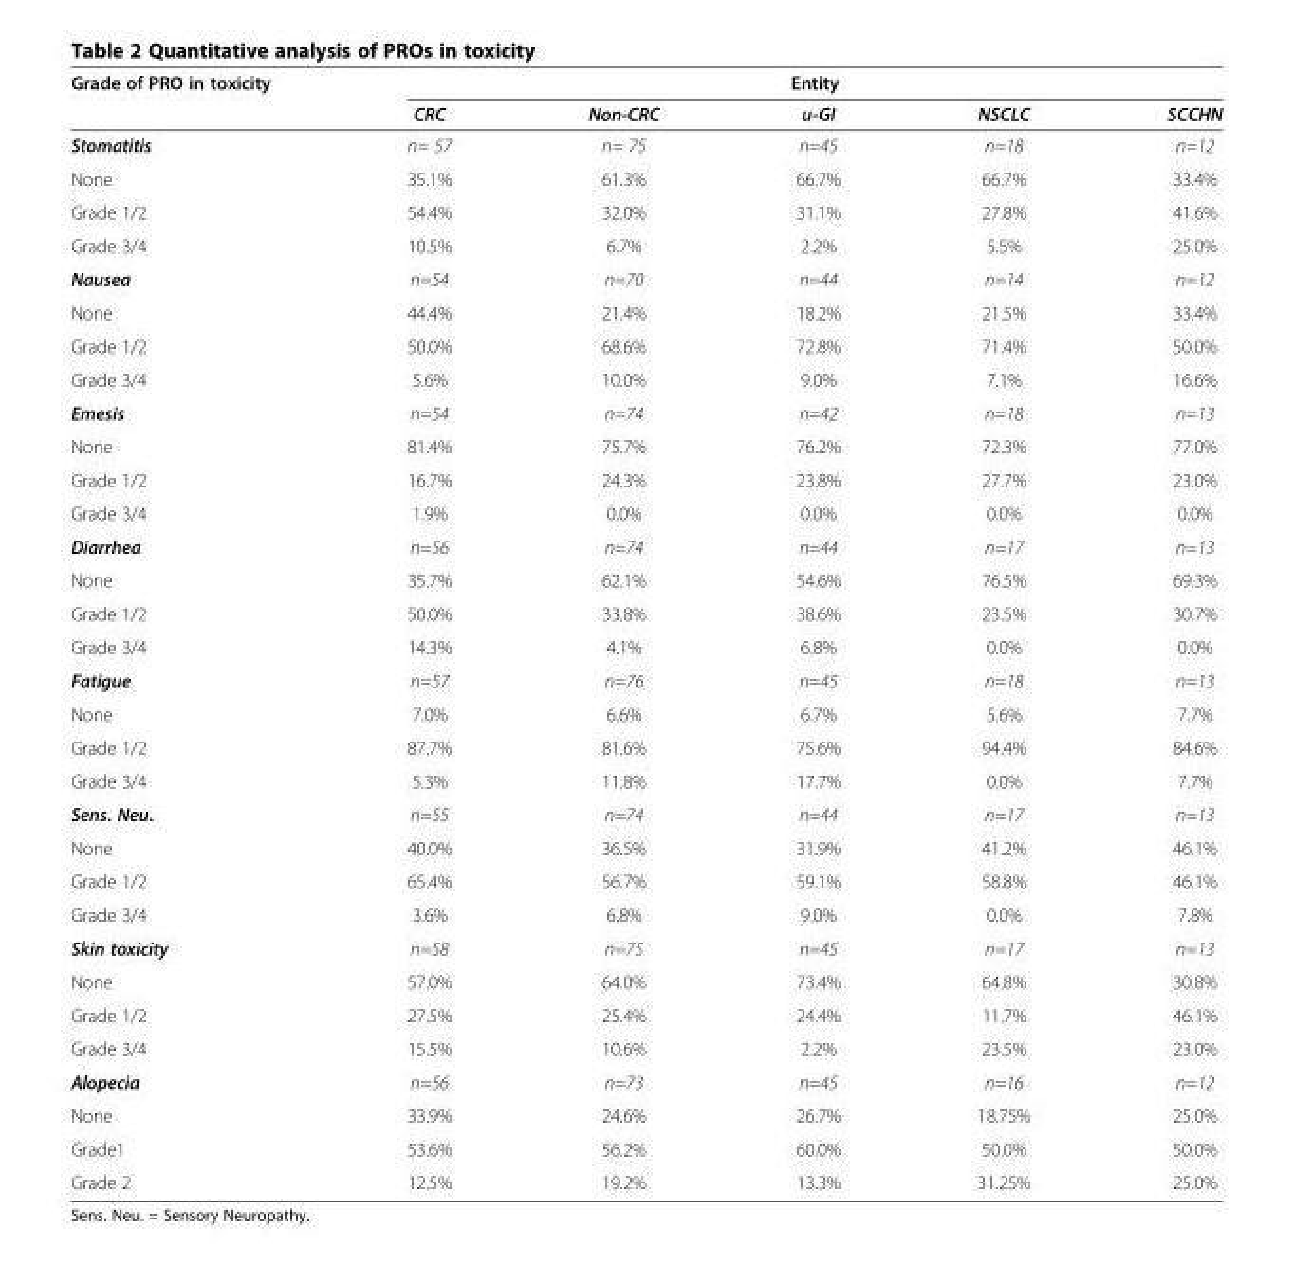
<table><thead><tr><td rowspan="2">Grade of PRO in toxicity</td><td colspan="5">Entity</td></tr><tr><td>CRC</td><td>Non-CRC</td><td>u-GI</td><td>NSCLC</td><td>SCCHN</td></tr></thead><tbody><tr><td>Stomatitis</td><td>n= 57</td><td>n= 75</td><td>n=45</td><td>n=18</td><td>n=12</td></tr><tr><td>None</td><td>35.1%</td><td>61.3%</td><td>66.7%</td><td>66.7%</td><td>33.4%</td></tr><tr><td>Grade 1/2</td><td>54.4%</td><td>32.0%</td><td>31.1%</td><td>27.8%</td><td>41.6%</td></tr><tr><td>Grade 3/4</td><td>10.5%</td><td>6.7%</td><td>2.2%</td><td>5.5%</td><td>25.0%</td></tr><tr><td>Nausea</td><td>n=54</td><td>n=70</td><td>n=44</td><td>n=14</td><td>n=12</td></tr><tr><td>None</td><td>44.4%</td><td>21.4%</td><td>18.2%</td><td>21.5%</td><td>33.4%</td></tr><tr><td>Grade 1/2</td><td>50.0%</td><td>68.6%</td><td>72.8%</td><td>71.4%</td><td>50.0%</td></tr><tr><td>Grade 3/4</td><td>5.6%</td><td>10.0%</td><td>9.0%</td><td>7.1%</td><td>16.6%</td></tr><tr><td>Emesis</td><td>n=54</td><td>n=74</td><td>n=42</td><td>n=18</td><td>n=13</td></tr><tr><td>None</td><td>81.4%</td><td>75.7%</td><td>76.2%</td><td>72.3%</td><td>77.0%</td></tr><tr><td>Grade 1/2</td><td>16.7%</td><td>24.3%</td><td>23.8%</td><td>27.7%</td><td>23.0%</td></tr><tr><td>Grade 3/4</td><td>1.9%</td><td>0.0%</td><td>0.0%</td><td>0.0%</td><td>0.0%</td></tr><tr><td>Diarrhea</td><td>n=56</td><td>n=74</td><td>n=44</td><td>n=17</td><td>n=13</td></tr><tr><td>None</td><td>35.7%</td><td>62.1%</td><td>54.6%</td><td>76.5%</td><td>69.3%</td></tr><tr><td>Grade 1/2</td><td>50.0%</td><td>33.8%</td><td>38.6%</td><td>23.5%</td><td>30.7%</td></tr><tr><td>Grade 3/4</td><td>14.3%</td><td>4.1%</td><td>6.8%</td><td>0.0%</td><td>0.0%</td></tr><tr><td>Fatigue</td><td>n=57</td><td>n=76</td><td>n=45</td><td>n=18</td><td>n=13</td></tr><tr><td>None</td><td>7.0%</td><td>6.6%</td><td>6.7%</td><td>5.6%</td><td>7.7%</td></tr><tr><td>Grade 1/2</td><td>87.7%</td><td>81.6%</td><td>75.6%</td><td>94.4%</td><td>84.6%</td></tr><tr><td>Grade 3/4</td><td>5.3%</td><td>11.8%</td><td>17.7%</td><td>0.0%</td><td>7.7%</td></tr><tr><td>Sens. Neu.</td><td>n=55</td><td>n=74</td><td>n=44</td><td>n=17</td><td>n=13</td></tr><tr><td>None</td><td>40.0%</td><td>36.5%</td><td>31.9%</td><td>41.2%</td><td>46.1%</td></tr><tr><td>Grade 1/2</td><td>65.4%</td><td>56.7%</td><td>59.1%</td><td>58.8%</td><td>46.1%</td></tr><tr><td>Grade 3/4</td><td>3.6%</td><td>6.8%</td><td>9.0%</td><td>0.0%</td><td>7.8%</td></tr><tr><td>Skin toxicity</td><td>n=58</td><td>n=75</td><td>n=45</td><td>n=17</td><td>n=13</td></tr><tr><td>None</td><td>57.0%</td><td>64.0%</td><td>73.4%</td><td>64.8%</td><td>30.8%</td></tr><tr><td>Grade 1/2</td><td>27.5%</td><td>25.4%</td><td>24.4%</td><td>11.7%</td><td>46.1%</td></tr><tr><td>Grade 3/4</td><td>15.5%</td><td>10.6%</td><td>2.2%</td><td>23.5%</td><td>23.0%</td></tr><tr><td>Alopecia</td><td>n=56</td><td>n=73</td><td>n=45</td><td>n=16</td><td>n=12</td></tr><tr><td>None</td><td>33.9%</td><td>24.6%</td><td>26.7%</td><td>18.75%</td><td>25.0%</td></tr><tr><td>Grade1</td><td>53.6%</td><td>56.2%</td><td>60.0%</td><td>50.0%</td><td>50.0%</td></tr><tr><td>Grade 2</td><td>12.5%</td><td>19.2%</td><td>13.3%</td><td>31.25%</td><td>25.0%</td></tr></tbody></table>